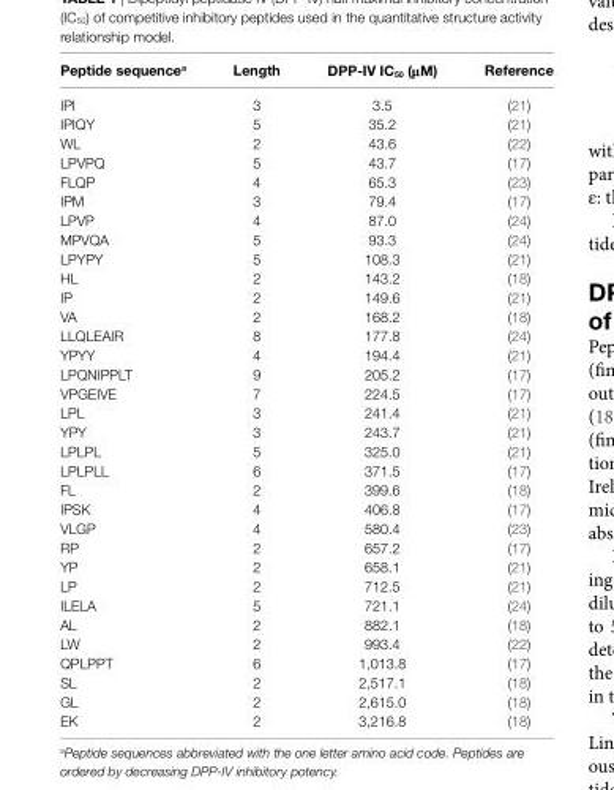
<table><thead><tr><td>Peptide sequence<sup>a</sup></td><td>length</td><td>DPP-iV ic<sub>50</sub> (μM)</td><td>reference</td></tr></thead><tbody><tr><td>IPI</td><td>3</td><td>3.5</td><td>(21)</td></tr><tr><td>IPIQY</td><td>5</td><td>35.2</td><td>(21)</td></tr><tr><td>WL</td><td>2</td><td>43.6</td><td>(22)</td></tr><tr><td>LPVPQ</td><td>5</td><td>43.7</td><td>(17)</td></tr><tr><td>FLQP</td><td>4</td><td>65.3</td><td>(23)</td></tr><tr><td>IPM</td><td>3</td><td>79.4</td><td>(17)</td></tr><tr><td>LPVP</td><td>4</td><td>87.0</td><td>(24)</td></tr><tr><td>MPVQA</td><td>5</td><td>93.3</td><td>(24)</td></tr><tr><td>LPYPY</td><td>5</td><td>108.3</td><td>(21)</td></tr><tr><td>HL</td><td>2</td><td>143.2</td><td>(18)</td></tr><tr><td>IP</td><td>2</td><td>149.6</td><td>(21)</td></tr><tr><td>VA</td><td>2</td><td>168.2</td><td>(18)</td></tr><tr><td>LLQLEAIR</td><td>8</td><td>177.8</td><td>(24)</td></tr><tr><td>YPYY</td><td>4</td><td>194.4</td><td>(21)</td></tr><tr><td>LPQNIPPLT</td><td>9</td><td>205.2</td><td>(17)</td></tr><tr><td>VPGEIVE</td><td>7</td><td>224.5</td><td>(17)</td></tr><tr><td>LPL</td><td>3</td><td>241.4</td><td>(21)</td></tr><tr><td>YPY</td><td>3</td><td>243.7</td><td>(21)</td></tr><tr><td>LPLPL</td><td>5</td><td>325.0</td><td>(21)</td></tr><tr><td>LPLPLL</td><td>6</td><td>371.5</td><td>(17)</td></tr><tr><td>FL</td><td>2</td><td>399.6</td><td>(18)</td></tr><tr><td>IPSK</td><td>4</td><td>406.8</td><td>(17)</td></tr><tr><td>VLGP</td><td>4</td><td>580.4</td><td>(23)</td></tr><tr><td>RP</td><td>2</td><td>657.2</td><td>(17)</td></tr><tr><td>YP</td><td>2</td><td>658.1</td><td>(21)</td></tr><tr><td>LP</td><td>2</td><td>712.5</td><td>(21)</td></tr><tr><td>ILELA</td><td>5</td><td>721.1</td><td>(24)</td></tr><tr><td>AL</td><td>2</td><td>882.1</td><td>(18)</td></tr><tr><td>LW</td><td>2</td><td>993.4</td><td>(22)</td></tr><tr><td>QPLPPT</td><td>6</td><td>1,013.8</td><td>(17)</td></tr><tr><td>SL</td><td>2</td><td>2,517.1</td><td>(18)</td></tr><tr><td>GL</td><td>2</td><td>2,615.0</td><td>(18)</td></tr><tr><td>EK</td><td>2</td><td>3,216.8</td><td>(18)</td></tr></tbody></table>